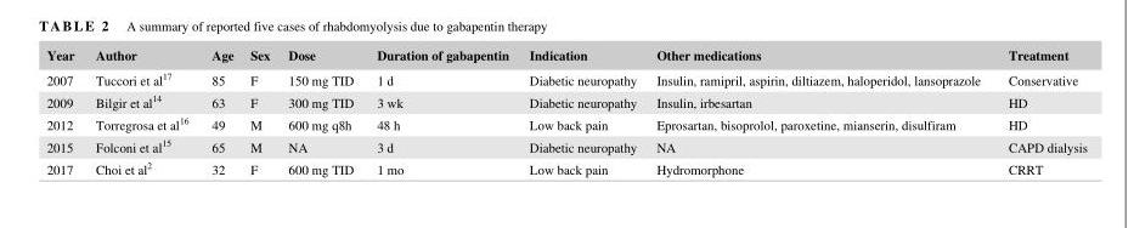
<table><thead><tr><td>Year</td><td>Author</td><td>Age</td><td>Sex</td><td>Dose</td><td>Duration of gabapentin</td><td>Indication</td><td>Other medications</td><td>Treatment</td></tr></thead><tbody><tr><td>2007</td><td>Tuccori et al<sup>17</sup></td><td>85</td><td>F</td><td>150 mg TID</td><td>1 d</td><td>Diabetic neuropathy</td><td>Insulin, ramipril, aspirin, diltiazem, haloperidol, lansoprazole</td><td>Conservative</td></tr><tr><td>2009</td><td>Bilgir et al<sup>14</sup></td><td>63</td><td>F</td><td>300 mg TID</td><td>3 wk</td><td>Diabetic neuropathy</td><td>Insulin, irbesartan</td><td>HD</td></tr><tr><td>2012</td><td>Torregrosa et al<sup>16</sup></td><td>49</td><td>M</td><td>600 mg q8h</td><td>48 h</td><td>Low back pain</td><td>Eprosartan, bisoprolol, paroxetine, mianserin, disulfiram</td><td>HD</td></tr><tr><td>2015</td><td>Folconi et al<sup>15</sup></td><td>65</td><td>M</td><td>NA</td><td>3 d</td><td>Diabetic neuropathy</td><td>NA</td><td>CAPD dialysis</td></tr><tr><td>2017</td><td>Choi et al<sup>2</sup></td><td>32</td><td>F</td><td>600 mg TID</td><td>1 mo</td><td>Low back pain</td><td>Hydromorphone</td><td>CRRT</td></tr></tbody></table>